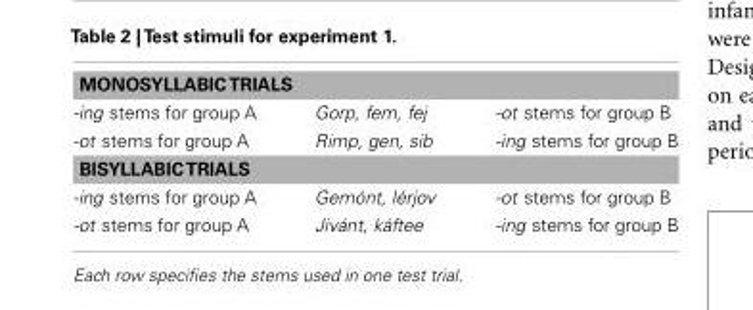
<table><tbody><tr><td colspan="3">MONOSYLLABICTRIALS</td></tr><tr><td>-ing stems for group A</td><td>Gorp, fem, fej</td><td>-ot stems for group B</td></tr><tr><td>-ot stems for group A</td><td>Rimp, gen, sib</td><td>-ing stems for group B</td></tr><tr><td colspan="3">BISYLLABICTRIALS</td></tr><tr><td>-ing stems for group A</td><td>Gemónt, lérjov</td><td>-ot stems for group B</td></tr><tr><td>-ot stems for group A</td><td>Jivánt, káftee</td><td>-ing stems for group B</td></tr></tbody></table>